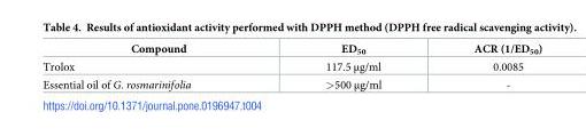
<table><thead><tr><td>Compound</td><td>ED<sub>50</sub></td><td>ACR (1/ED<sub>50</sub>)</td></tr></thead><tbody><tr><td>Trolox</td><td>117.5 μg/ml</td><td>0.0085</td></tr><tr><td>Essential oil of G. rosmarinifolia</td><td>&gt;500 μg/ml</td><td>-</td></tr></tbody></table>